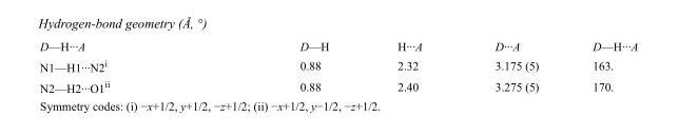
<table><tbody><tr><td>D—H···A</td><td>D—H</td><td>H···A</td><td>D···A</td><td>D—H···A</td></tr><tr><td>N1—H1···N2<sup>i</sup></td><td>0.88</td><td>2.32</td><td>3.175 (5)</td><td>163.</td></tr><tr><td>N2—H2···O1<sup>ii</sup></td><td>0.88</td><td>2.40</td><td>3.275 (5)</td><td>170.</td></tr></tbody></table>